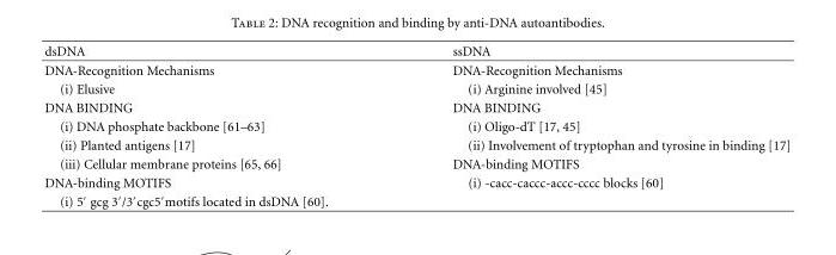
<table><thead><tr><td>dsDNA</td><td>ssDNA</td></tr></thead><tbody><tr><td>DNA-Recognition Mechanisms</td><td>DNA-Recognition Mechanisms</td></tr><tr><td>(i) Elusive</td><td>(i) Arginine involved [45]</td></tr><tr><td>DNA BINDING</td><td>DNA BINDING</td></tr><tr><td>(i) DNA phosphate backbone [61–63]</td><td>(i) Oligo-dT [17, 45]</td></tr><tr><td>(ii) Planted antigens [17]</td><td>(ii) Involvement of tryptophan and tyrosine in binding [17]</td></tr><tr><td>(iii) Cellular membrane proteins [65, 66]</td><td>DNA-binding MOTIFS</td></tr><tr><td>DNA-binding MOTIFS</td><td>(i) -cacc-caccc-accc-cccc blocks [60]</td></tr><tr><td>(i) 5′ gcg 3′/3′cgc5′motifs located in dsDNA [60].</td><td></td></tr></tbody></table>